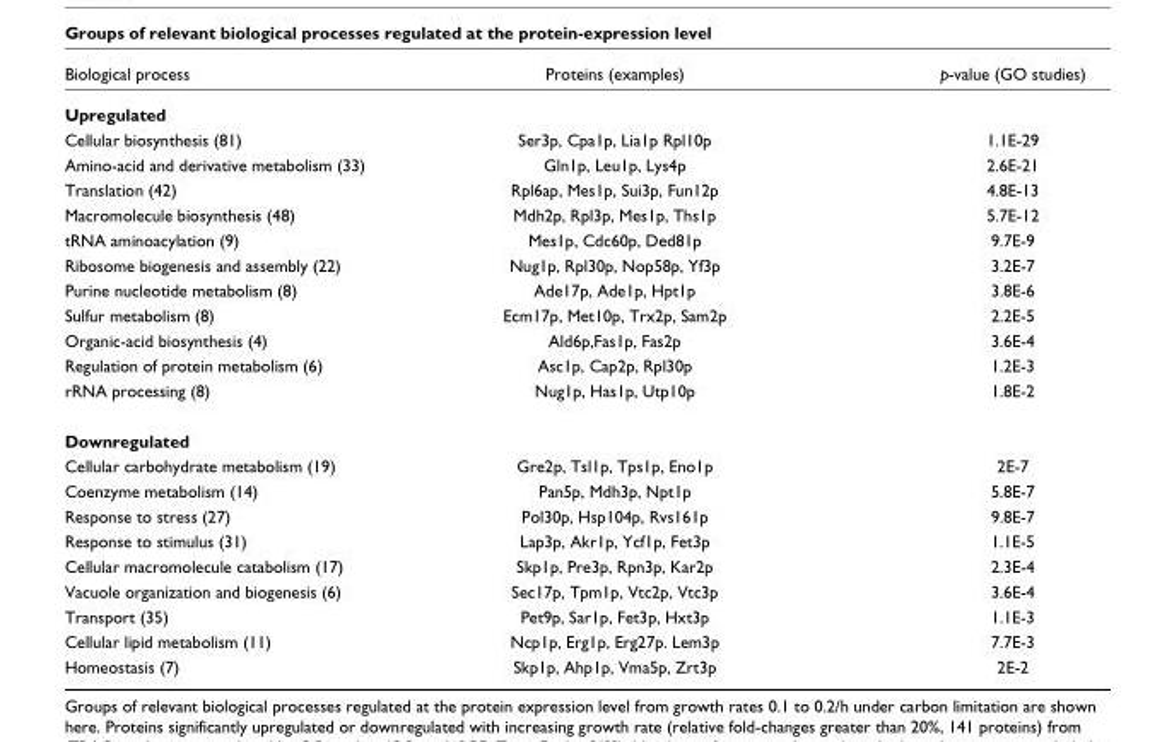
<table><thead><tr><td>Biological process</td><td>Proteins (examples)</td><td>p-value (GO studies)</td></tr></thead><tbody><tr><td colspan="3">Upregulated</td></tr><tr><td>Cellular biosynthesis (81)</td><td>Ser3p, Cpa1p, Lia1p Rpl10p</td><td>1.1E-29</td></tr><tr><td>Amino-acid and derivative metabolism (33)</td><td>Gln1p, Leu1p, Lys4p</td><td>2.6E-21</td></tr><tr><td>Translation (42)</td><td>Rpl6ap, Mes1p, Sui3p, Fun12p</td><td>4.8E-13</td></tr><tr><td>Macromolecule biosynthesis (48)</td><td>Mdh2p, Rpl3p, Mes1p, Ths1p</td><td>5.7E-12</td></tr><tr><td>tRNA aminoacylation (9)</td><td>Mes1p, Cdc60p, Ded81p</td><td>9.7E-9</td></tr><tr><td>Ribosome biogenesis and assembly (22)</td><td>Nug1p, Rpl30p, Nop58p, Yf3p</td><td>3.2E-7</td></tr><tr><td>Purine nucleotide metabolism (8)</td><td>Ade17p, Ade1p, Hpt1p</td><td>3.8E-6</td></tr><tr><td>Sulfur metabolism (8)</td><td>Ecm17p, Met10p, Trx2p, Sam2p</td><td>2.2E-5</td></tr><tr><td>Organic-acid biosynthesis (4)</td><td>Ald6p,Fas1p, Fas2p</td><td>3.6E-4</td></tr><tr><td>Regulation of protein metabolism (6)</td><td>Asc1p, Cap2p, Rpl30p</td><td>1.2E-3</td></tr><tr><td>rRNA processing (8)</td><td>Nug1p, Has1p, Utp10p</td><td>1.8E-2</td></tr><tr><td colspan="3">Downregulated</td></tr><tr><td>Cellular carbohydrate metabolism (19)</td><td>Gre2p, Tsl1p, Tps1p, Eno1p</td><td>2E-7</td></tr><tr><td>Coenzyme metabolism (14)</td><td>Pan5p, Mdh3p, Npt1p</td><td>5.8E-7</td></tr><tr><td>Response to stress (27)</td><td>Pol30p, Hsp104p, Rvs161p</td><td>9.8E-7</td></tr><tr><td>Response to stimulus (31)</td><td>Lap3p, Akr1p, Ycf1p, Fet3p</td><td>1.1E-5</td></tr><tr><td>Cellular macromolecule catabolism (17)</td><td>Skp1p, Pre3p, Rpn3p, Kar2p</td><td>2.3E-4</td></tr><tr><td>Vacuole organization and biogenesis (6)</td><td>Sec17p, Tpm1p, Vtc2p, Vtc3p</td><td>3.6E-4</td></tr><tr><td>Transport (35)</td><td>Pet9p, Sar1p, Fet3p, Hxt3p</td><td>1.1E-3</td></tr><tr><td>Cellular lipid metabolism (11)</td><td>Ncp1p, Erg1p, Erg27p. Lem3p</td><td>7.7E-3</td></tr><tr><td>Homeostasis (7)</td><td>Skp1p, Ahp1p, Vma5p, Zrt3p</td><td>2E-2</td></tr></tbody></table>